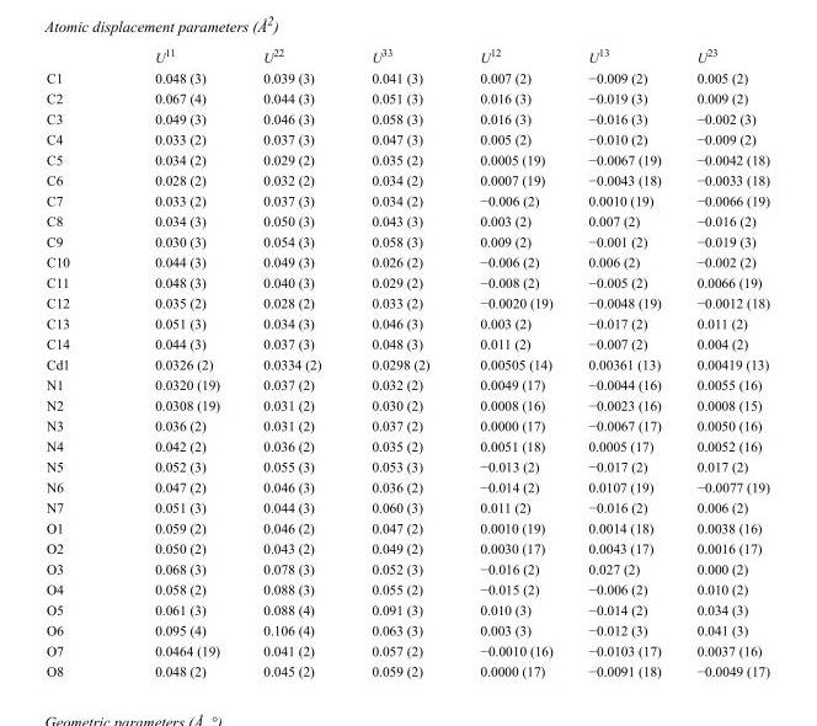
<table><thead><tr><td></td><td>U<sup>11</sup></td><td>U<sup>22</sup></td><td>U<sup>33</sup></td><td>U<sup>12</sup></td><td>U<sup>13</sup></td><td>U<sup>23</sup></td></tr></thead><tbody><tr><td>C1</td><td>0.048 (3)</td><td>0.039 (3)</td><td>0.041 (3)</td><td>0.007 (2)</td><td>−0.009 (2)</td><td>0.005 (2)</td></tr><tr><td>C2</td><td>0.067 (4)</td><td>0.044 (3)</td><td>0.051 (3)</td><td>0.016 (3)</td><td>−0.019 (3)</td><td>0.009 (2)</td></tr><tr><td>C3</td><td>0.049 (3)</td><td>0.046 (3)</td><td>0.058 (3)</td><td>0.016 (3)</td><td>−0.016 (3)</td><td>−0.002 (3)</td></tr><tr><td>C4</td><td>0.033 (2)</td><td>0.037 (3)</td><td>0.047 (3)</td><td>0.005 (2)</td><td>−0.010 (2)</td><td>−0.009 (2)</td></tr><tr><td>C5</td><td>0.034 (2)</td><td>0.029 (2)</td><td>0.035 (2)</td><td>0.0005 (19)</td><td>−0.0067 (19)</td><td>−0.0042 (18)</td></tr><tr><td>C6</td><td>0.028 (2)</td><td>0.032 (2)</td><td>0.034 (2)</td><td>0.0007 (19)</td><td>−0.0043 (18)</td><td>−0.0033 (18)</td></tr><tr><td>C7</td><td>0.033 (2)</td><td>0.037 (3)</td><td>0.034 (2)</td><td>−0.006 (2)</td><td>0.0010 (19)</td><td>−0.0066 (19)</td></tr><tr><td>C8</td><td>0.034 (3)</td><td>0.050 (3)</td><td>0.043 (3)</td><td>0.003 (2)</td><td>0.007 (2)</td><td>−0.016 (2)</td></tr><tr><td>C9</td><td>0.030 (3)</td><td>0.054 (3)</td><td>0.058 (3)</td><td>0.009 (2)</td><td>−0.001 (2)</td><td>−0.019 (3)</td></tr><tr><td>C10</td><td>0.044 (3)</td><td>0.049 (3)</td><td>0.026 (2)</td><td>−0.006 (2)</td><td>0.006 (2)</td><td>−0.002 (2)</td></tr><tr><td>C11</td><td>0.048 (3)</td><td>0.040 (3)</td><td>0.029 (2)</td><td>−0.008 (2)</td><td>−0.005 (2)</td><td>0.0066 (19)</td></tr><tr><td>C12</td><td>0.035 (2)</td><td>0.028 (2)</td><td>0.033 (2)</td><td>−0.0020 (19)</td><td>−0.0048 (19)</td><td>−0.0012 (18)</td></tr><tr><td>C13</td><td>0.051 (3)</td><td>0.034 (3)</td><td>0.046 (3)</td><td>0.003 (2)</td><td>−0.017 (2)</td><td>0.011 (2)</td></tr><tr><td>C14</td><td>0.044 (3)</td><td>0.037 (3)</td><td>0.048 (3)</td><td>0.011 (2)</td><td>−0.007 (2)</td><td>0.004 (2)</td></tr><tr><td>Cd1</td><td>0.0326 (2)</td><td>0.0334 (2)</td><td>0.0298 (2)</td><td>0.00505 (14)</td><td>0.00361 (13)</td><td>0.00419 (13)</td></tr><tr><td>N1</td><td>0.0320 (19)</td><td>0.037 (2)</td><td>0.032 (2)</td><td>0.0049 (17)</td><td>−0.0044 (16)</td><td>0.0055 (16)</td></tr><tr><td>N2</td><td>0.0308 (19)</td><td>0.031 (2)</td><td>0.030 (2)</td><td>0.0008 (16)</td><td>−0.0023 (16)</td><td>0.0008 (15)</td></tr><tr><td>N3</td><td>0.036 (2)</td><td>0.031 (2)</td><td>0.037 (2)</td><td>0.0000 (17)</td><td>−0.0067 (17)</td><td>0.0050 (16)</td></tr><tr><td>N4</td><td>0.042 (2)</td><td>0.036 (2)</td><td>0.035 (2)</td><td>0.0051 (18)</td><td>0.0005 (17)</td><td>0.0052 (16)</td></tr><tr><td>N5</td><td>0.052 (3)</td><td>0.055 (3)</td><td>0.053 (3)</td><td>−0.013 (2)</td><td>−0.017 (2)</td><td>0.017 (2)</td></tr><tr><td>N6</td><td>0.047 (2)</td><td>0.046 (3)</td><td>0.036 (2)</td><td>−0.014 (2)</td><td>0.0107 (19)</td><td>−0.0077 (19)</td></tr><tr><td>N7</td><td>0.051 (3)</td><td>0.044 (3)</td><td>0.060 (3)</td><td>0.011 (2)</td><td>−0.016 (2)</td><td>0.006 (2)</td></tr><tr><td>O1</td><td>0.059 (2)</td><td>0.046 (2)</td><td>0.047 (2)</td><td>0.0010 (19)</td><td>0.0014 (18)</td><td>0.0038 (16)</td></tr><tr><td>O2</td><td>0.050 (2)</td><td>0.043 (2)</td><td>0.049 (2)</td><td>0.0030 (17)</td><td>0.0043 (17)</td><td>0.0016 (17)</td></tr><tr><td>O3</td><td>0.068 (3)</td><td>0.078 (3)</td><td>0.052 (3)</td><td>−0.016 (2)</td><td>0.027 (2)</td><td>0.000 (2)</td></tr><tr><td>O4</td><td>0.058 (2)</td><td>0.088 (3)</td><td>0.055 (2)</td><td>−0.015 (2)</td><td>−0.006 (2)</td><td>0.010 (2)</td></tr><tr><td>O5</td><td>0.061 (3)</td><td>0.088 (4)</td><td>0.091 (3)</td><td>0.010 (3)</td><td>−0.014 (2)</td><td>0.034 (3)</td></tr><tr><td>O6</td><td>0.095 (4)</td><td>0.106 (4)</td><td>0.063 (3)</td><td>0.003 (3)</td><td>−0.012 (3)</td><td>0.041 (3)</td></tr><tr><td>O7</td><td>0.0464 (19)</td><td>0.041 (2)</td><td>0.057 (2)</td><td>−0.0010 (16)</td><td>−0.0103 (17)</td><td>0.0037 (16)</td></tr><tr><td>O8</td><td>0.048 (2)</td><td>0.045 (2)</td><td>0.059 (2)</td><td>0.0000 (17)</td><td>−0.0091 (18)</td><td>−0.0049 (17)</td></tr></tbody></table>